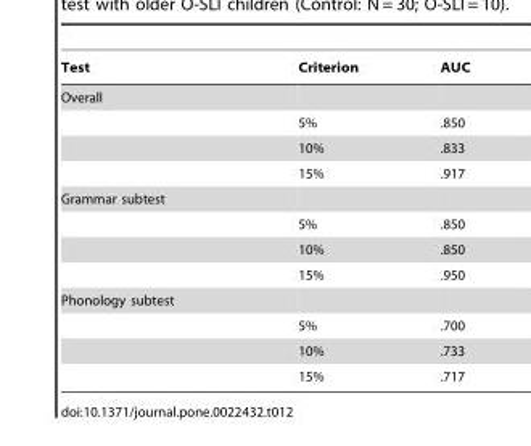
<table><thead><tr><td>Test</td><td>Criterion</td><td>AUC</td></tr></thead><tbody><tr><td colspan="3">Overall</td></tr><tr><td></td><td>5%</td><td>.850</td></tr><tr><td></td><td>10%</td><td>.833</td></tr><tr><td></td><td>15%</td><td>.917</td></tr><tr><td colspan="3">Grammar subtest</td></tr><tr><td></td><td>5%</td><td>.850</td></tr><tr><td></td><td>10%</td><td>.850</td></tr><tr><td></td><td>15%</td><td>.950</td></tr><tr><td colspan="3">Phonology subtest</td></tr><tr><td></td><td>5%</td><td>.700</td></tr><tr><td></td><td>10%</td><td>.733</td></tr><tr><td></td><td>15%</td><td>.717</td></tr></tbody></table>